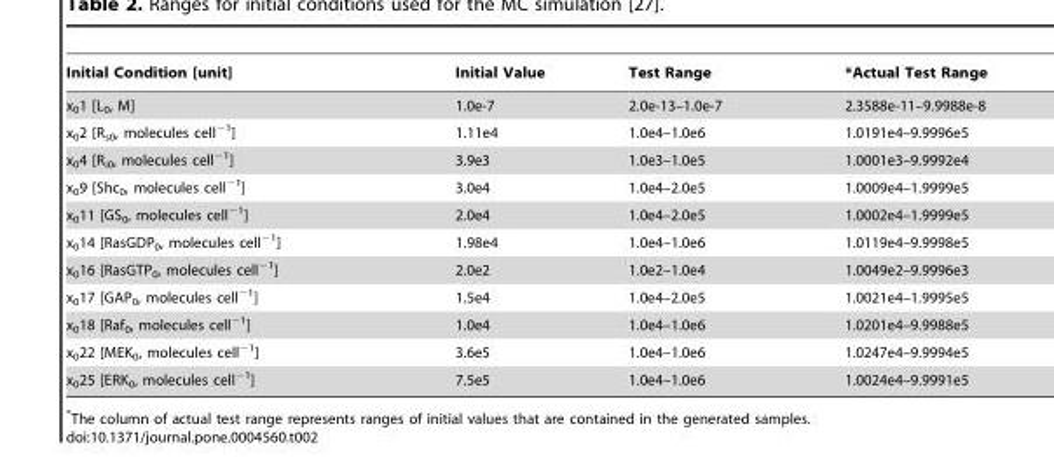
<table><thead><tr><td>Initial Condition [unit]</td><td>Initial Value</td><td>Test Range</td><td>*Actual Test Range</td></tr></thead><tbody><tr><td>x<sub>0</sub>1 [L<sub>0</sub>, M]</td><td>1.0e-7</td><td>2.0e-13–1.0e-7</td><td>2.3588e-11–9.9988e-8</td></tr><tr><td>x<sub>0</sub>2 [R<sub>s0</sub>, molecules cell<sup>−1</sup>]</td><td>1.11e4</td><td>1.0e4–1.0e6</td><td>1.0191e4–9.9996e5</td></tr><tr><td>x<sub>0</sub>4 [R<sub>i0</sub>, molecules cell<sup>−1</sup>]</td><td>3.9e3</td><td>1.0e3–1.0e5</td><td>1.0001e3–9.9992e4</td></tr><tr><td>x<sub>0</sub>9 [Shc<sub>0</sub>, molecules cell<sup>−1</sup>]</td><td>3.0e4</td><td>1.0e4–2.0e5</td><td>1.0009e4–1.9999e5</td></tr><tr><td>x<sub>0</sub>11 [GS<sub>0</sub>, molecules cell<sup>−1</sup>]</td><td>2.0e4</td><td>1.0e4–2.0e5</td><td>1.0002e4–1.9999e5</td></tr><tr><td>x<sub>0</sub>14 [RasGDP<sub>0</sub>, molecules cell<sup>−1</sup>]</td><td>1.98e4</td><td>1.0e4–1.0e6</td><td>1.0119e4–9.9998e5</td></tr><tr><td>x<sub>0</sub>16 [RasGTP<sub>0</sub>, molecules cell<sup>−1</sup>]</td><td>2.0e2</td><td>1.0e2–1.0e4</td><td>1.0049e2–9.9996e3</td></tr><tr><td>x<sub>0</sub>17 [GAP<sub>0</sub>, molecules cell<sup>−1</sup>]</td><td>1.5e4</td><td>1.0e4–2.0e5</td><td>1.0021e4–1.9995e5</td></tr><tr><td>x<sub>0</sub>18 [Raf<sub>0</sub>, molecules cell<sup>−1</sup>]</td><td>1.0e4</td><td>1.0e4–1.0e6</td><td>1.0201e4–9.9988e5</td></tr><tr><td>x<sub>0</sub>22 [MEK<sub>0</sub>, molecules cell<sup>−1</sup>]</td><td>3.6e5</td><td>1.0e4–1.0e6</td><td>1.0247e4–9.9994e5</td></tr><tr><td>x<sub>0</sub>25 [ERK<sub>0</sub>, molecules cell<sup>−1</sup>]</td><td>7.5e5</td><td>1.0e4–1.0e6</td><td>1.0024e4–9.9991e5</td></tr></tbody></table>